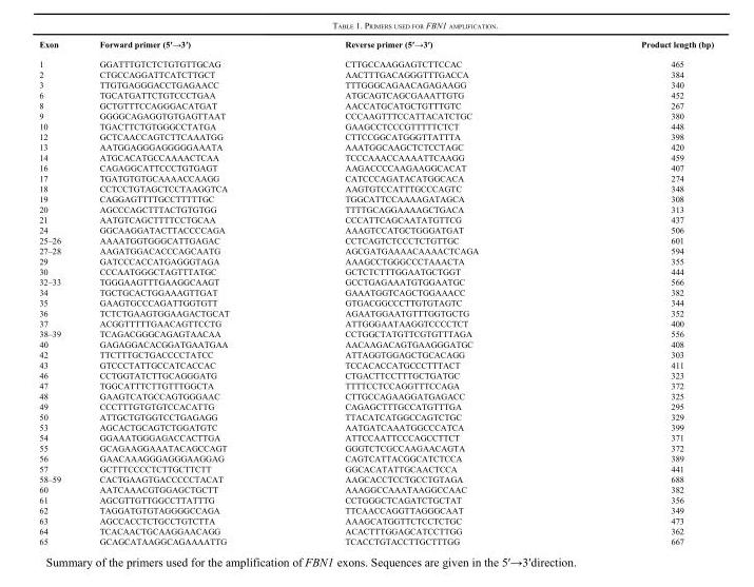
<table><thead><tr><td>Exon</td><td>Forward primer (5′→3′)</td><td>Reverse primer (5′→3′)</td><td>Product length (bp)</td></tr></thead><tbody><tr><td>1</td><td>GGATTTGTCTCTGTGTTGCAG</td><td>CTTGCCAAGGAGTCTTCCAC</td><td>465</td></tr><tr><td>2</td><td>CTGCCAGGATTCATCTTGCT</td><td>AACTTTGACAGGGTTTGACCA</td><td>384</td></tr><tr><td>3</td><td>TTGTGAGGGACCTGAGAACC</td><td>TTTGGGCAGAACAGAGAAGG</td><td>340</td></tr><tr><td>6</td><td>TGCATGATTCTGTCCCTGAA</td><td>ATGCAGTCAGCGAAATTGTG</td><td>452</td></tr><tr><td>8</td><td>GCTGTTTCCAGGGACATGAT</td><td>AACCATGCATGCTGTTTGTC</td><td>267</td></tr><tr><td>9</td><td>GGGGCAGAGGTGTGAGTTAAT</td><td>CCCAAGTTTCCATTACATCTGC</td><td>380</td></tr><tr><td>10</td><td>TGACTTCTGTGGGCCTATGA</td><td>GAAGCCTCCCGTTTTTCTCT</td><td>448</td></tr><tr><td>12</td><td>GCTCAACCAGTCTTCAAATGG</td><td>CTTCCGGCATGGGTTATTTA</td><td>398</td></tr><tr><td>13</td><td>AATGGAGGGAGGGGGAAATA</td><td>AAATGGCAAGCTCTCCTAGC</td><td>420</td></tr><tr><td>14</td><td>ATGCACATGCCAAAACTCAA</td><td>TCCCAAACCAAAATTCAAGG</td><td>459</td></tr><tr><td>16</td><td>CAGAGGCATTCCCTGTGAGT</td><td>AAGACCCCAAGAAGGCACAT</td><td>407</td></tr><tr><td>17</td><td>TGATGTGTGCAAAACCAAGG</td><td>CATCCCAGATACATGGCACA</td><td>274</td></tr><tr><td>18</td><td>CCTCCTGTAGCTCCTAAGGTCA</td><td>AAGTGTCCATTTGCCCAGTC</td><td>348</td></tr><tr><td>19</td><td>CAGGAGTTTTGCCTTTTTGC</td><td>TGGCATTCCAAAAGATAGCA</td><td>308</td></tr><tr><td>20</td><td>AGCCCAGCTTTACTGTGTGG</td><td>TTTTGCAGGAAAAGCTGACA</td><td>313</td></tr><tr><td>21</td><td>AATGTCAGCTTTTCCTGCAA</td><td>CCCATTCAGCAATATGTTCG</td><td>437</td></tr><tr><td>24</td><td>GGCAAGGATACTTACCCCAGA</td><td>AAAGTCCATGCTGGGATGAT</td><td>506</td></tr><tr><td>25–26</td><td>AAAATGGTGGGCATTGAGAC</td><td>CCTCAGTCTCCCTCTGTTGC</td><td>601</td></tr><tr><td>27–28</td><td>AAGATGGACACCCAGCAATG</td><td>AGCGATGAAAACAAAACTCAGA</td><td>594</td></tr><tr><td>29</td><td>GATCCCACCATGAGGGTAGA</td><td>AAAGCCTGGGCCCTAAACTA</td><td>355</td></tr><tr><td>30</td><td>CCCAATGGGCTAGTTTATGC</td><td>GCTCTCTTTGGAATGCTGGT</td><td>444</td></tr><tr><td>32–33</td><td>TGGGAAGTTTGAAGGCAAGT</td><td>GCCTGAGAAATGTGGAATGC</td><td>566</td></tr><tr><td>34</td><td>TGCTGCACTGGAAAGTTGAT</td><td>GAAATGGTCAGCTGGAAACC</td><td>382</td></tr><tr><td>35</td><td>GAAGTGCCCAGATTGGTGTT</td><td>GTGACGGCCCTTGTGTAGTC</td><td>344</td></tr><tr><td>36</td><td>TCTCTGAAGTGGAAGACTGCAT</td><td>AGAATGGAATGTTTGGTGCTG</td><td>352</td></tr><tr><td>37</td><td>ACGGTTTTTGAACAGTTCCTG</td><td>ATTGGGAATAAGGTCCCCTCT</td><td>400</td></tr><tr><td>38–39</td><td>TCAGACGGGCAGAGTAACAA</td><td>CCTGGCTATGTTCGTGTTTAGA</td><td>556</td></tr><tr><td>40</td><td>GAGAGGACACGGATGAATGAA</td><td>AACAAGACAGTGAAGGGATGC</td><td>408</td></tr><tr><td>42</td><td>TTCTTTGCTGACCCCTATCC</td><td>ATTAGGTGGAGCTGCACAGG</td><td>303</td></tr><tr><td>43</td><td>GTCCCTATTGCCATCACCAC</td><td>TCCACACCATGCCCTTTACT</td><td>411</td></tr><tr><td>46</td><td>CCTGGTATCTTGCAGGGATG</td><td>CTGACTTCCTTTGCTGATGC</td><td>323</td></tr><tr><td>47</td><td>TGGCATTTCTTGTTTGGCTA</td><td>TTTTCCTCCAGGTTTCCAGA</td><td>372</td></tr><tr><td>48</td><td>GAAGTCATGCCAGTGGGAAC</td><td>CTTGCCAGAAGGATGAGACC</td><td>325</td></tr><tr><td>49</td><td>CCCTTTGTGTGTCCACATTG</td><td>CAGAGCTTTGCCATGTTTGA</td><td>295</td></tr><tr><td>50</td><td>ATTGCTGTGGTCCTGAGAGG</td><td>TTACATCATGGCCAGTCTGC</td><td>329</td></tr><tr><td>53</td><td>AGCACTGCAGTCTGGATGTC</td><td>AATGATCAAATGGCCCATCA</td><td>399</td></tr><tr><td>54</td><td>GGAAATGGGAGACCACTTGA</td><td>ATTCCAATTCCCAGCCTTCT</td><td>371</td></tr><tr><td>55</td><td>GCAGAAGGAAATACAGCCAGT</td><td>GGGTCTCGCCAAGAACAGTA</td><td>372</td></tr><tr><td>56</td><td>GAACAAAGGGAGGGAAGGAG</td><td>CAGTCATTACGGCATCTCCA</td><td>389</td></tr><tr><td>57</td><td>GCTTTCCCCTCTTGCTTCTT</td><td>GGCACATATTGCAACTCCA</td><td>441</td></tr><tr><td>58–59</td><td>CACTGAAGTGACCCCCTACAT</td><td>AAGCACCTCCTGCCTGTAGA</td><td>688</td></tr><tr><td>60</td><td>AATCAAACGTGGAGCTGCTT</td><td>AAAGGCCAAATAAGGCCAAC</td><td>382</td></tr><tr><td>61</td><td>AGCGTTGTTGGCCTTATTTG</td><td>CCTGGGCTCAGATCTGCTAT</td><td>356</td></tr><tr><td>62</td><td>TAGGATGTGTAGGGGCCAGA</td><td>TTCAACCAGGTTAGGGCAAT</td><td>349</td></tr><tr><td>63</td><td>AGCCACCTCTGCCTGTCTTA</td><td>AAAGCATGGTTCTCCTCTGC</td><td>473</td></tr><tr><td>64</td><td>TCACAACTGCAAGGAACAGG</td><td>ACACTTTGGAGCATCCTTGG</td><td>362</td></tr><tr><td>65</td><td>GCAGCATAAGGCAGAAAATTG</td><td>TCACCTGTACCTTGCTTTGG</td><td>667</td></tr></tbody></table>